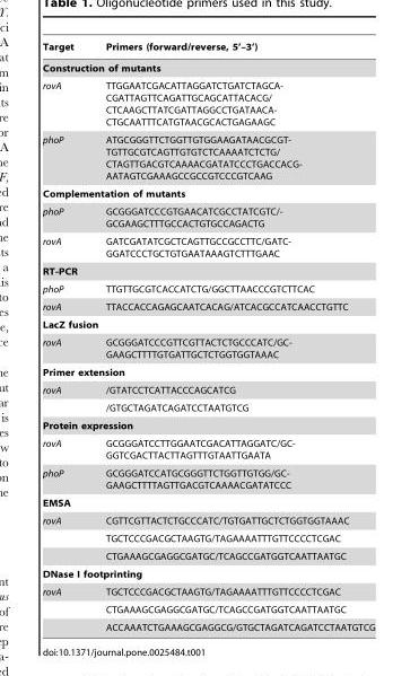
<table><thead><tr><td>Target</td><td>Primers (forward/reverse, 5’–3’)</td></tr></thead><tbody><tr><td colspan="2">Construction of mutants</td></tr><tr><td>rovA</td><td>TTGGAATCGACATTAGGATCTGATCTAGCA- CGATTAGTTCAGATTGCAGCATTACACG/ CTCAAGCTTATCGATTAGGCCTGATAACA- CTGCAATTTCATGTAACGCACTGAGAAGC</td></tr><tr><td>phoP</td><td>ATGCGGGTTCTGGTTGTGGAAGATAACGCGT- TGTTGCGTCAGTTGTGTCTCAAAATCTCTG/ CTAGTTGACGTCAAAACGATATCCCTGACCACG- AATAGTCGAAAGCCGCCGTCCCGTCAAG</td></tr><tr><td colspan="2">Complementation of mutants</td></tr><tr><td>phoP</td><td>GCGGGATCCCGTGAACATCGCCTATCGTC/- GCGAAGCTTTGCCACTGTGCCAGACTG</td></tr><tr><td>rovA</td><td>GATCGATATCGCTCAGTTGCCGCCTTC/GATC- GGATCCCTGCTGTGAATAAAGTCTTTGAAC</td></tr><tr><td colspan="2">RT-PCR</td></tr><tr><td>phoP</td><td>TTGTTGCGTCACCATCTG/GGCTTAACCCGTCTTCAC</td></tr><tr><td>rovA</td><td>TTACCACCAGAGCAATCACAG/ATCACGCCATCAACCTGTTC</td></tr><tr><td colspan="2">LacZ fusion</td></tr><tr><td>rovA</td><td>GCGGGATCCCGTTCGTTACTCTGCCCATC/GC- GAAGCTTTTGTGATTGCTCTGGTGGTAAAC</td></tr><tr><td colspan="2">Primer extension</td></tr><tr><td rowspan="2">rovA</td><td>/GTATCCTCATTACCCAGCATCG</td></tr><tr><td>/GTGCTAGATCAGATCCTAATGTCG</td></tr><tr><td colspan="2">Protein expression</td></tr><tr><td>rovA</td><td>GCGGGATCCTTGGAATCGACATTAGGATC/GC- GGTCGACTTACTTAGTTTGTAATTGAATA</td></tr><tr><td>phoP</td><td>GCGGGATCCATGCGGGTTCTGGTTGTGG/GC- GAAGCTTTTAGTTGACGTCAAAACGATATCCC</td></tr><tr><td colspan="2">EMSA</td></tr><tr><td rowspan="3">rovA</td><td>CGTTCGTTACTCTGCCCATC/TGTGATTGCTCTGGTGGTAAAC</td></tr><tr><td>TGCTCCCGACGCTAAGTG/TAGAAAATTTGTTCCCCTCGAC</td></tr><tr><td>CTGAAAGCGAGGCGATGC/TCAGCCGATGGTCAATTAATGC</td></tr><tr><td colspan="2">DNase I footprinting</td></tr><tr><td rowspan="3">rovA</td><td>TGCTCCCGACGCTAAGTG/TAGAAAATTTGTTCCCCTCGAC</td></tr><tr><td>CTGAAAGCGAGGCGATGC/TCAGCCGATGGTCAATTAATGC</td></tr><tr><td>ACCAAATCTGAAAGCGAGGCG/GTGCTAGATCAGATCCTAATGTCG</td></tr></tbody></table>